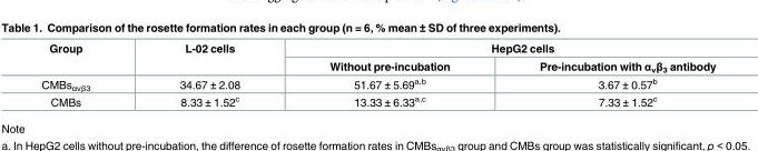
<table><thead><tr><td rowspan="2">Group</td><td rowspan="2">L-02 cells</td><td colspan="2">HepG2 cells</td></tr><tr><td>Without pre-incubation</td><td>Pre-incubation with α<sub>v</sub>β<sub>3</sub> antibody</td></tr></thead><tbody><tr><td>CMBs<sub>αvβ3</sub></td><td>34.67 ± 2.08</td><td>51.67 ± 5.69<sup>a,b</sup></td><td>3.67 ± 0.57<sup>b</sup></td></tr><tr><td>CMBs</td><td>8.33 ± 1.52<sup>c</sup></td><td>13.33 ± 6.33<sup>a,c</sup></td><td>7.33 ± 1.52<sup>c</sup></td></tr></tbody></table>